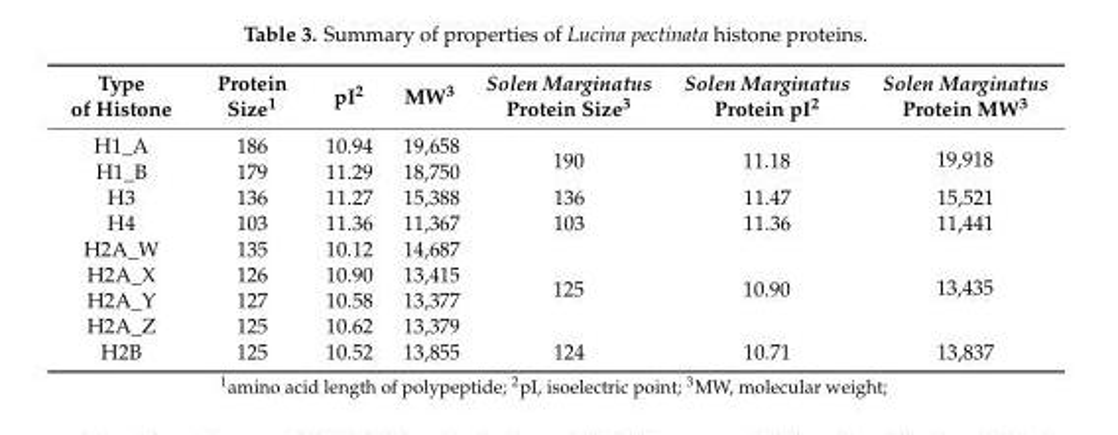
<table><thead><tr><td>Type of Histone</td><td>Protein Size<sup>1</sup></td><td>pI<sup>2</sup></td><td>MW<sup>3</sup></td><td>Solen Marginatus Protein Size<sup>3</sup></td><td>Solen Marginatus Protein pI<sup>2</sup></td><td>Solen Marginatus Protein MW<sup>3</sup></td></tr></thead><tbody><tr><td>H1_A</td><td>186</td><td>10.94</td><td>19,658</td><td rowspan="2">190</td><td rowspan="2">11.18</td><td rowspan="2">19,918</td></tr><tr><td>H1_B</td><td>179</td><td>11.29</td><td>18,750</td></tr><tr><td>H3</td><td>136</td><td>11.27</td><td>15,388</td><td>136</td><td>11.47</td><td>15,521</td></tr><tr><td>H4</td><td>103</td><td>11.36</td><td>11,367</td><td>103</td><td>11.36</td><td>11,441</td></tr><tr><td>H2A_W</td><td>135</td><td>10.12</td><td>14,687</td><td rowspan="4">125</td><td rowspan="4">10.90</td><td rowspan="4">13,435</td></tr><tr><td>H2A_X</td><td>126</td><td>10.90</td><td>13,415</td></tr><tr><td>H2A_Y</td><td>127</td><td>10.58</td><td>13,377</td></tr><tr><td>H2A_Z</td><td>125</td><td>10.62</td><td>13,379</td></tr><tr><td>H2B</td><td>125</td><td>10.52</td><td>13,855</td><td>124</td><td>10.71</td><td>13,837</td></tr></tbody></table>